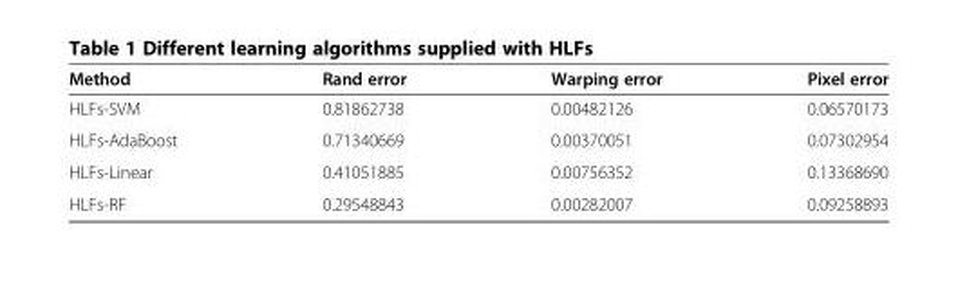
<table><thead><tr><td>Method</td><td>Rand error</td><td>Warping error</td><td>Pixel error</td></tr></thead><tbody><tr><td>HLFs-SVM</td><td>0.81862738</td><td>0.00482126</td><td>0.06570173</td></tr><tr><td>HLFs-AdaBoost</td><td>0.71340669</td><td>0.00370051</td><td>0.07302954</td></tr><tr><td>HLFs-Linear</td><td>0.41051885</td><td>0.00756352</td><td>0.13368690</td></tr><tr><td>HLFs-RF</td><td>0.29548843</td><td>0.00282007</td><td>0.09258893</td></tr></tbody></table>